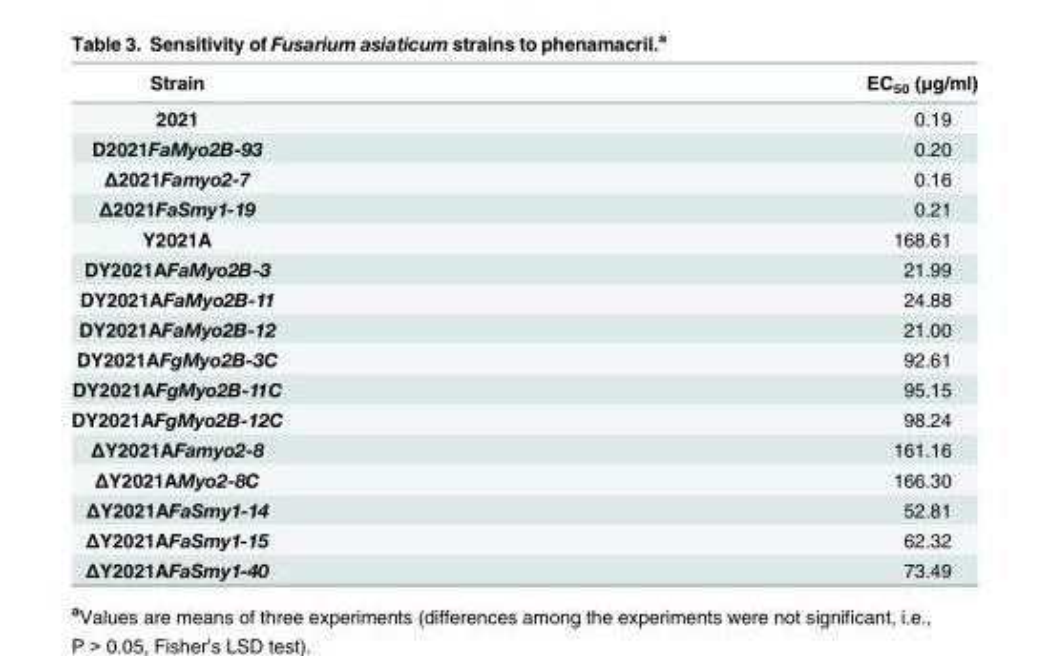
<table><thead><tr><td>Strain</td><td>EC<sub>50</sub> (μg/ml)</td></tr></thead><tbody><tr><td>2021</td><td>0.19</td></tr><tr><td>D2021FaMyo2B-93</td><td>0.20</td></tr><tr><td>Δ2021Famyo2-7</td><td>0.16</td></tr><tr><td>Δ2021FaSmy1-19</td><td>0.21</td></tr><tr><td>Y2021A</td><td>168.61</td></tr><tr><td>DY2021AFaMyo2B-3</td><td>21.99</td></tr><tr><td>DY2021AFaMyo2B-11</td><td>24.88</td></tr><tr><td>DY2021AFaMyo2B-12</td><td>21.00</td></tr><tr><td>DY2021AFgMyo2B-3C</td><td>92.61</td></tr><tr><td>DY2021AFgMyo2B-11C</td><td>95.15</td></tr><tr><td>DY2021AFgMyo2B-12C</td><td>98.24</td></tr><tr><td>ΔY2021AFamyo2-8</td><td>161.16</td></tr><tr><td>ΔY2021AMyo2-8C</td><td>166.30</td></tr><tr><td>ΔY2021AFaSmy1-14</td><td>52.81</td></tr><tr><td>ΔY2021AFaSmy1-15</td><td>62.32</td></tr><tr><td>ΔY2021AFaSmy1-40</td><td>73.49</td></tr></tbody></table>